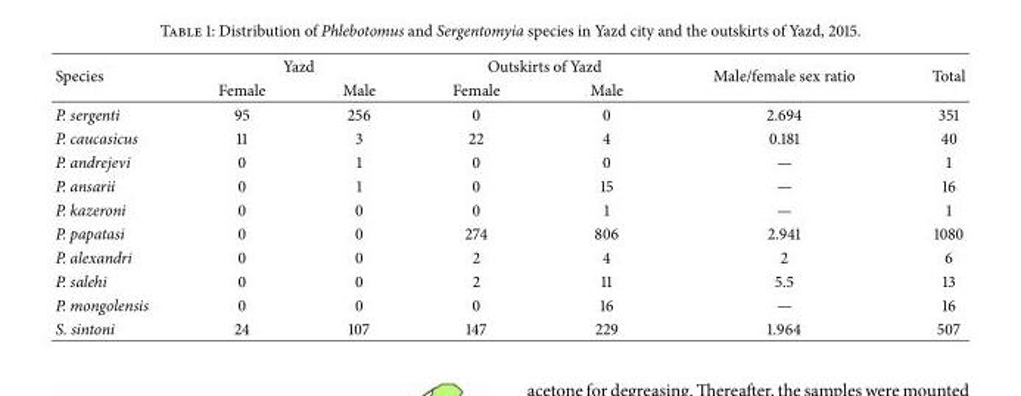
<table><thead><tr><td rowspan="2">Species</td><td colspan="2">Yazd</td><td colspan="2">Outskirts of Yazd</td><td rowspan="2">Male/female sex ratio</td><td rowspan="2">Total</td></tr><tr><td>Female</td><td>Male</td><td>Female</td><td>Male</td></tr></thead><tbody><tr><td>P. sergenti</td><td>95</td><td>256</td><td>0</td><td>0</td><td>2.694</td><td>351</td></tr><tr><td>P. caucasicus</td><td>11</td><td>3</td><td>22</td><td>4</td><td>0.181</td><td>40</td></tr><tr><td>P. andrejevi</td><td>0</td><td>1</td><td>0</td><td>0</td><td>—</td><td>1</td></tr><tr><td>P. ansarii</td><td>0</td><td>1</td><td>0</td><td>15</td><td>—</td><td>16</td></tr><tr><td>P. kazeroni</td><td>0</td><td>0</td><td>0</td><td>1</td><td>—</td><td>1</td></tr><tr><td>P. papatasi</td><td>0</td><td>0</td><td>274</td><td>806</td><td>2.941</td><td>1080</td></tr><tr><td>P. alexandri</td><td>0</td><td>0</td><td>2</td><td>4</td><td>2</td><td>6</td></tr><tr><td>P. salehi</td><td>0</td><td>0</td><td>2</td><td>11</td><td>5.5</td><td>13</td></tr><tr><td>P. mongolensis</td><td>0</td><td>0</td><td>0</td><td>16</td><td>—</td><td>16</td></tr><tr><td>S. sintoni</td><td>24</td><td>107</td><td>147</td><td>229</td><td>1.964</td><td>507</td></tr></tbody></table>